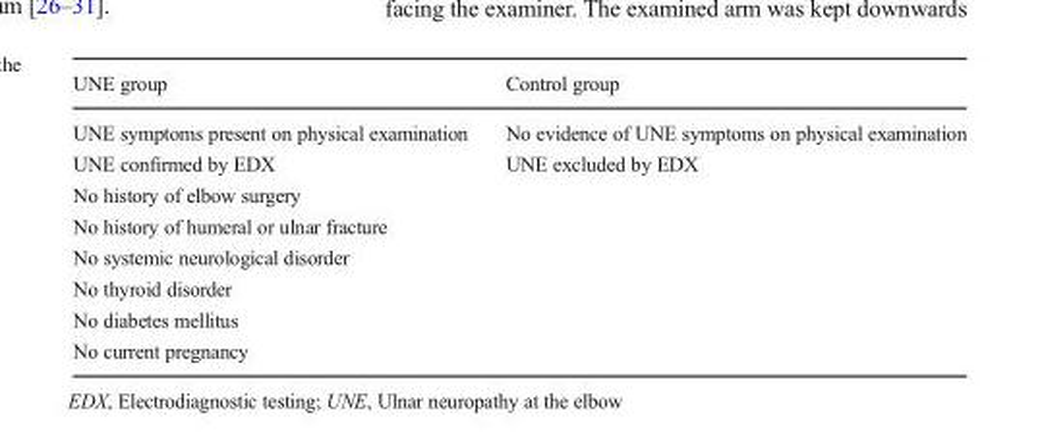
<table><thead><tr><td>UNE group</td><td>Control group</td></tr></thead><tbody><tr><td>UNE symptoms present on physical examination</td><td>No evidence of UNE symptoms on physical examination</td></tr><tr><td>UNE confirmed by EDX</td><td>UNE excluded by EDX</td></tr><tr><td colspan="2">No history of elbow surgery No history of humeral or ulnar fracture No systemic neurological disorder No thyroid disorder No diabetes mellitus No current pregnancy</td></tr></tbody></table>